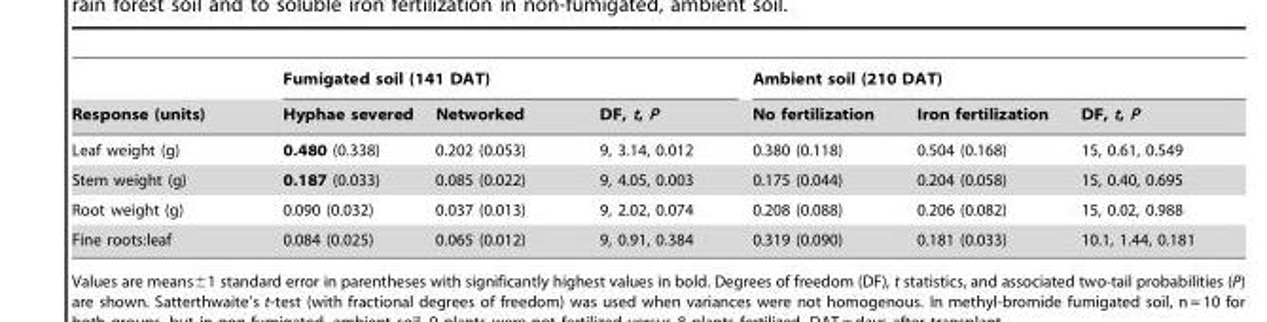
<table><thead><tr><td rowspan="2">Response (units)</td><td colspan="3">Fumigated soil (141 DAT)</td><td colspan="3">Ambient soil (210 DAT)</td></tr><tr><td>Hyphae severed</td><td>Networked</td><td>DF, t, P</td><td>No fertilization</td><td>Iron fertilization</td><td>DF, t, P</td></tr></thead><tbody><tr><td>Leaf weight (g)</td><td>0.480 (0.338)</td><td>0.202 (0.053)</td><td>9, 3.14, 0.012</td><td>0.380 (0.118)</td><td>0.504 (0.168)</td><td>15, 0.61, 0.549</td></tr><tr><td>Stem weight (g)</td><td>0.187 (0.033)</td><td>0.085 (0.022)</td><td>9, 4.05, 0.003</td><td>0.175 (0.044)</td><td>0.204 (0.058)</td><td>15, 0.40, 0.695</td></tr><tr><td>Root weight (g)</td><td>0.090 (0.032)</td><td>0.037 (0.013)</td><td>9, 2.02, 0.074</td><td>0.208 (0.088)</td><td>0.206 (0.082)</td><td>15, 0.02, 0.988</td></tr><tr><td>Fine roots:leaf</td><td>0.084 (0.025)</td><td>0.065 (0.012)</td><td>9, 0.91, 0.384</td><td>0.319 (0.090)</td><td>0.181 (0.033)</td><td>10.1, 1.44, 0.181</td></tr></tbody></table>